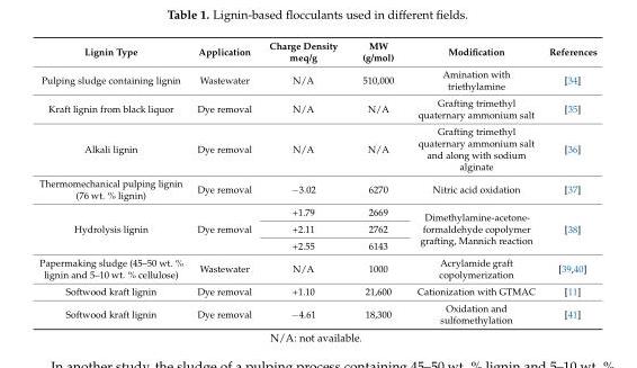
<table><thead><tr><td>Lignin Type</td><td>Application</td><td>Charge Density meq/g</td><td>MW (g/mol)</td><td>Modification</td><td>References</td></tr></thead><tbody><tr><td>Pulping sludge containing lignin</td><td>Wastewater</td><td>N/A</td><td>510,000</td><td>Amination with triethylamine</td><td>[34]</td></tr><tr><td>Kraft lignin from black liquor</td><td>Dye removal</td><td>N/A</td><td>N/A</td><td>Grafting trimethyl quaternary ammonium salt</td><td>[35]</td></tr><tr><td>Alkali lignin</td><td>Dye removal</td><td>N/A</td><td>N/A</td><td>Grafting trimethyl quaternary ammonium salt and along with sodium alginate</td><td>[36]</td></tr><tr><td>Thermomechanical pulping lignin (76 wt. % lignin)</td><td>Dye removal</td><td>−3.02</td><td>6270</td><td>Nitric acid oxidation</td><td>[37]</td></tr><tr><td rowspan="3">Hydrolysis lignin</td><td rowspan="3">Dye removal</td><td>+1.79</td><td>2669</td><td rowspan="3">Dimethylamine-acetone- formaldehyde copolymer grafting, Mannich reaction</td><td rowspan="3">[38]</td></tr><tr><td>+2.11</td><td>2762</td></tr><tr><td>+2.55</td><td>6143</td></tr><tr><td>Papermaking sludge (45–50 wt. % lignin and 5–10 wt. % cellulose)</td><td>Wastewater</td><td>N/A</td><td>1000</td><td>Acrylamide graft copolymerization</td><td>[39,40]</td></tr><tr><td>Softwood kraft lignin</td><td>Dye removal</td><td>+1.10</td><td>21,600</td><td>Cationization with GTMAC</td><td>[11]</td></tr><tr><td>Softwood kraft lignin</td><td>Dye removal</td><td>−4.61</td><td>18,300</td><td>Oxidation and sulfomethylation</td><td>[41]</td></tr></tbody></table>